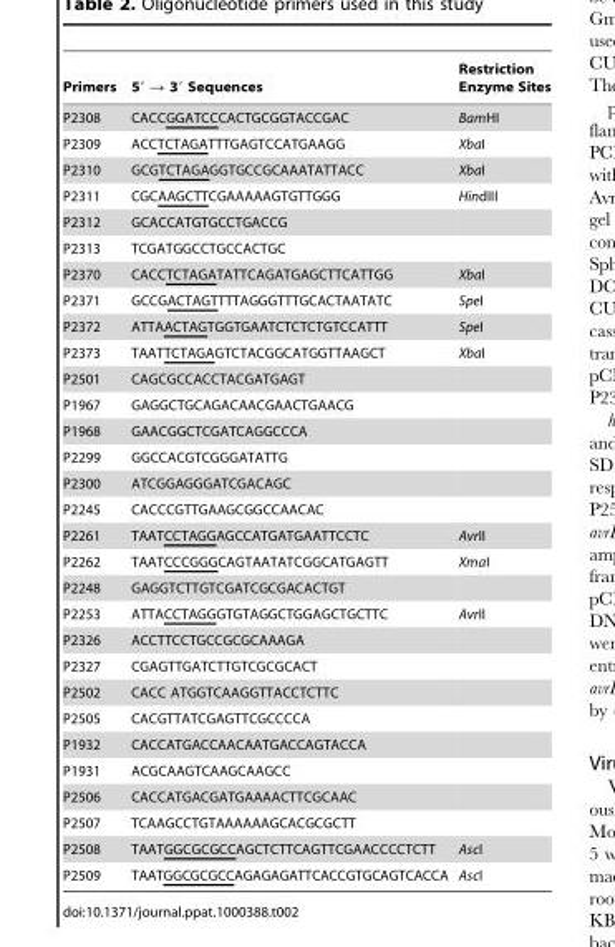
<table><thead><tr><td>Primers</td><td>5′ → 3′ Sequences</td><td>Restriction Enzyme Sites</td></tr></thead><tbody><tr><td>P2308</td><td>CACCGGATCCCACTGCGGTACCGAC</td><td>BamHI</td></tr><tr><td>P2309</td><td>ACCTCTAGATTTGAGTCCATGAAGG</td><td>XbaI</td></tr><tr><td>P2310</td><td>GCGTCTAGAGGTGCCGCAAATATTACC</td><td>XbaI</td></tr><tr><td>P2311</td><td>CGCAAGCTTCGAAAAAGTGTTGGG</td><td>HindIII</td></tr><tr><td>P2312</td><td>GCACCATGTGCCTGACCG</td><td></td></tr><tr><td>P2313</td><td>TCGATGGCCTGCCACTGC</td><td></td></tr><tr><td>P2370</td><td>CACCTCTAGATATTCAGATGAGCTTCATTGG</td><td>XbaI</td></tr><tr><td>P2371</td><td>GCCGACTAGTTTTAGGGTTTGCACTAATATC</td><td>SpeI</td></tr><tr><td>P2372</td><td>ATTAACTAGTGGTGAATCTCTCTGTCCATTT</td><td>SpeI</td></tr><tr><td>P2373</td><td>TAATTCTAGAGTCTACGGCATGGTTAAGCT</td><td>XbaI</td></tr><tr><td>P2501</td><td>CAGCGCCACCTACGATGAGT</td><td></td></tr><tr><td>P1967</td><td>GAGGCTGCAGACAACGAACTGAACG</td><td></td></tr><tr><td>P1968</td><td>GAACGGCTCGATCAGGCCCA</td><td></td></tr><tr><td>P2299</td><td>GGCCACGTCGGGATATTG</td><td></td></tr><tr><td>P2300</td><td>ATCGGAGGGATCGACAGC</td><td></td></tr><tr><td>P2245</td><td>CACCCGTTGAAGCGGCCAACAC</td><td></td></tr><tr><td>P2261</td><td>TAATCCTAGGAGCCATGATGAATTCCTC</td><td>AvrII</td></tr><tr><td>P2262</td><td>TAATCCCGGGCAGTAATATCGGCATGAGTT</td><td>XmaI</td></tr><tr><td>P2248</td><td>GAGGTCTTGTCGATCGCGACACTGT</td><td></td></tr><tr><td>P2253</td><td>ATTACCTAGGGTGTAGGCTGGAGCTGCTTC</td><td>AvrII</td></tr><tr><td>P2326</td><td>ACCTTCCTGCCGCGCAAAGA</td><td></td></tr><tr><td>P2327</td><td>CGAGTTGATCTTGTCGCGCACT</td><td></td></tr><tr><td>P2502</td><td>CACC ATGGTCAAGGTTACCTCTTC</td><td></td></tr><tr><td>P2505</td><td>CACGTTATCGAGTTCGCCCCA</td><td></td></tr><tr><td>P1932</td><td>CACCATGACCAACAATGACCAGTACCA</td><td></td></tr><tr><td>P1931</td><td>ACGCAAGTCAAGCAAGCC</td><td></td></tr><tr><td>P2506</td><td>CACCATGACGATGAAAACTTCGCAAC</td><td></td></tr><tr><td>P2507</td><td>TCAAGCCTGTAAAAAAGCACGCGCTT</td><td></td></tr><tr><td>P2508</td><td>TAATGGCGCGCCAGCTCTTCAGTTCGAACCCCTCTT</td><td>AscI</td></tr><tr><td>P2509</td><td>TAATGGCGCGCCAGAGAGATTCACCGTGCAGTCACCA</td><td>AscI</td></tr></tbody></table>